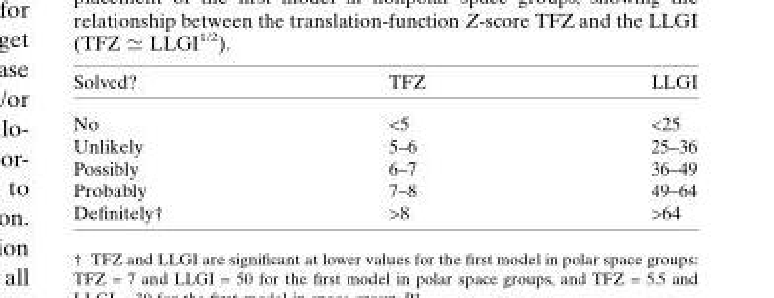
<table><thead><tr><td>Solved?</td><td>TFZ</td><td>LLGI</td></tr></thead><tbody><tr><td>No</td><td>&lt;5</td><td>&lt;25</td></tr><tr><td>Unlikely</td><td>5–6</td><td>25–36</td></tr><tr><td>Possibly</td><td>6–7</td><td>36–49</td></tr><tr><td>Probably</td><td>7–8</td><td>49–64</td></tr><tr><td>Definitely†</td><td>&gt;8</td><td>&gt;64</td></tr></tbody></table>